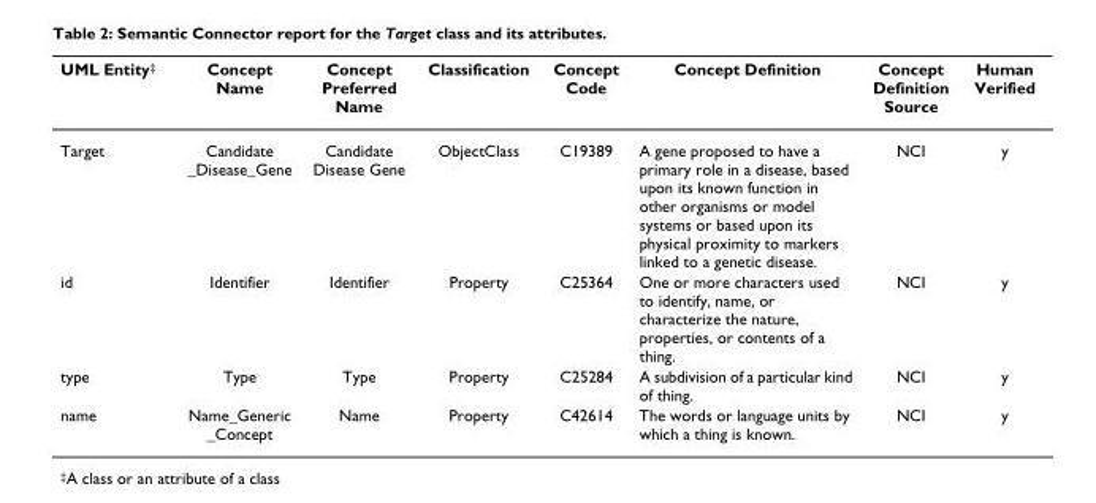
<table><thead><tr><td>UML Entity<sup>‡</sup></td><td>Concept Name</td><td>Concept Preferred Name</td><td>Classification</td><td>Concept Code</td><td>Concept Definition</td><td>Concept Definition Source</td><td>Human Verified</td></tr></thead><tbody><tr><td>Target</td><td>Candidate _Disease_Gene</td><td>Candidate Disease Gene</td><td>ObjectClass</td><td>C19389</td><td>A gene proposed to have a primary role in a disease, based upon its known function in other organisms or model systems or based upon its physical proximity to markers linked to a genetic disease.</td><td>NCI</td><td>y</td></tr><tr><td>id</td><td>Identifier</td><td>Identifier</td><td>Property</td><td>C25364</td><td>One or more characters used to identify, name, or characterize the nature, properties, or contents of a thing.</td><td>NCI</td><td>y</td></tr><tr><td>type</td><td>Type</td><td>Type</td><td>Property</td><td>C25284</td><td>A subdivision of a particular kind of thing.</td><td>NCI</td><td>y</td></tr><tr><td>name</td><td>Name_Generic _Concept</td><td>Name</td><td>Property</td><td>C42614</td><td>The words or language units by which a thing is known.</td><td>NCI</td><td>y</td></tr></tbody></table>